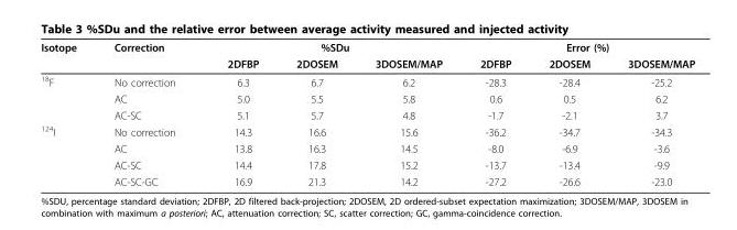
<table><thead><tr><td rowspan="2">Isotope</td><td rowspan="2">Correction</td><td colspan="3">%SDu</td><td colspan="3">Error (%)</td></tr><tr><td>2DFBP</td><td>2DOSEM</td><td>3DOSEM/MAP</td><td>2DFBP</td><td>2DOSEM</td><td>3DOSEM/MAP</td></tr></thead><tbody><tr><td rowspan="3"><sup>18</sup>F</td><td>No correction</td><td>6.3</td><td>6.7</td><td>6.2</td><td>-28.3</td><td>-28.4</td><td>-25.2</td></tr><tr><td>AC</td><td>5.0</td><td>5.5</td><td>5.8</td><td>0.6</td><td>0.5</td><td>6.2</td></tr><tr><td>AC-SC</td><td>5.1</td><td>5.7</td><td>4.8</td><td>-1.7</td><td>-2.1</td><td>3.7</td></tr><tr><td rowspan="4"><sup>124</sup>I</td><td>No correction</td><td>14.3</td><td>16.6</td><td>15.6</td><td>-36.2</td><td>-34.7</td><td>-34.3</td></tr><tr><td>AC</td><td>13.8</td><td>16.3</td><td>14.5</td><td>-8.0</td><td>-6.9</td><td>-3.6</td></tr><tr><td>AC-SC</td><td>14.4</td><td>17.8</td><td>15.2</td><td>-13.7</td><td>-13.4</td><td>-9.9</td></tr><tr><td>AC-SC-GC</td><td>16.9</td><td>21.3</td><td>14.2</td><td>-27.2</td><td>-26.6</td><td>-23.0</td></tr></tbody></table>